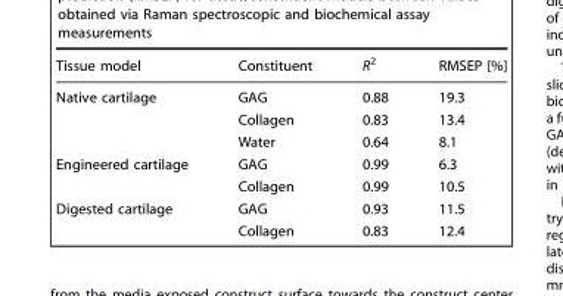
<table><thead><tr><td>Tissue model</td><td>Constituent</td><td>R<sup>2</sup></td><td>RMSEP [%]</td></tr></thead><tbody><tr><td rowspan="3">Native cartilage</td><td>GAG</td><td>0.88</td><td>19.3</td></tr><tr><td>Collagen</td><td>0.83</td><td>13.4</td></tr><tr><td>Water</td><td>0.64</td><td>8.1</td></tr><tr><td rowspan="2">Engineered cartilage</td><td>GAG</td><td>0.99</td><td>6.3</td></tr><tr><td>Collagen</td><td>0.99</td><td>10.5</td></tr><tr><td rowspan="2">Digested cartilage</td><td>GAG</td><td>0.93</td><td>11.5</td></tr><tr><td>Collagen</td><td>0.83</td><td>12.4</td></tr></tbody></table>